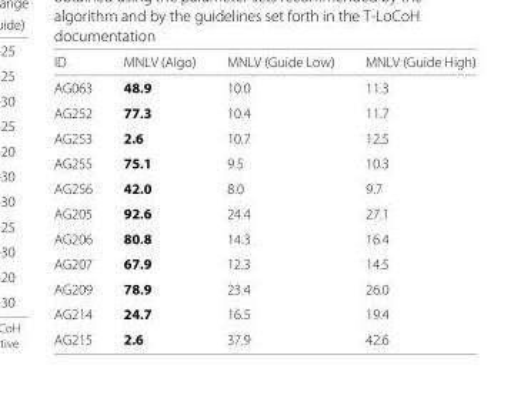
<table><thead><tr><td>ID</td><td>MNLV (Algo)</td><td>MNLV (Guide Low)</td><td>MNLV (Guide High)</td></tr></thead><tbody><tr><td>AG063</td><td>48.9</td><td>10.0</td><td>11.3</td></tr><tr><td>AG252</td><td>77.3</td><td>10.4</td><td>11.7</td></tr><tr><td>AG253</td><td>2.6</td><td>10.7</td><td>12.5</td></tr><tr><td>AG255</td><td>75.1</td><td>9.5</td><td>10.3</td></tr><tr><td>AG256</td><td>42.0</td><td>8.0</td><td>9.7</td></tr><tr><td>AG205</td><td>92.6</td><td>24.4</td><td>27.1</td></tr><tr><td>AG206</td><td>80.8</td><td>14.3</td><td>16.4</td></tr><tr><td>AG207</td><td>67.9</td><td>12.3</td><td>14.5</td></tr><tr><td>AG209</td><td>78.9</td><td>23.4</td><td>26.0</td></tr><tr><td>AG214</td><td>24.7</td><td>16.5</td><td>19.4</td></tr><tr><td>AG215</td><td>2.6</td><td>37.9</td><td>42.6</td></tr></tbody></table>